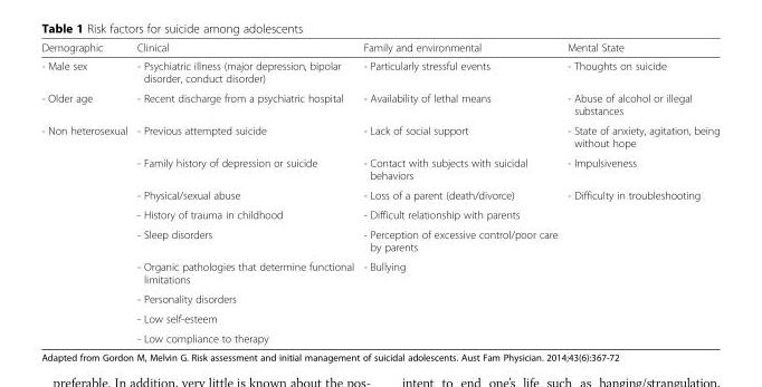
<table><thead><tr><td>Demographic</td><td>Clinical</td><td>Family and environmental</td><td>Mental State</td></tr></thead><tbody><tr><td>- Male sex</td><td>- Psychiatric illness (major depression, bipolar disorder, conduct disorder)</td><td>- Particularly stressful events</td><td>- Thoughts on suicide</td></tr><tr><td>- Older age</td><td>- Recent discharge from a psychiatric hospital</td><td>- Availability of lethal means</td><td>- Abuse of alcohol or illegal substances</td></tr><tr><td rowspan="9">- Non heterosexual</td><td>- Previous attempted suicide</td><td>- Lack of social support</td><td>- State of anxiety, agitation, being without hope</td></tr><tr><td>- Family history of depression or suicide</td><td>- Contact with subjects with suicidal behaviors</td><td>- Impulsiveness</td></tr><tr><td>- Physical/sexual abuse</td><td>- Loss of a parent (death/divorce)</td><td>- Difficulty in troubleshooting</td></tr><tr><td>- History of trauma in childhood</td><td>- Difficult relationship with parents</td><td></td></tr><tr><td>- Sleep disorders</td><td>- Perception of excessive control/poor care by parents</td><td></td></tr><tr><td>- Organic pathologies that determine functional limitations</td><td>- Bullying</td><td></td></tr><tr><td>- Personality disorders</td><td></td><td></td></tr><tr><td>- Low self-esteem</td><td></td><td></td></tr><tr><td>- Low compliance to therapy</td><td></td><td></td></tr></tbody></table>